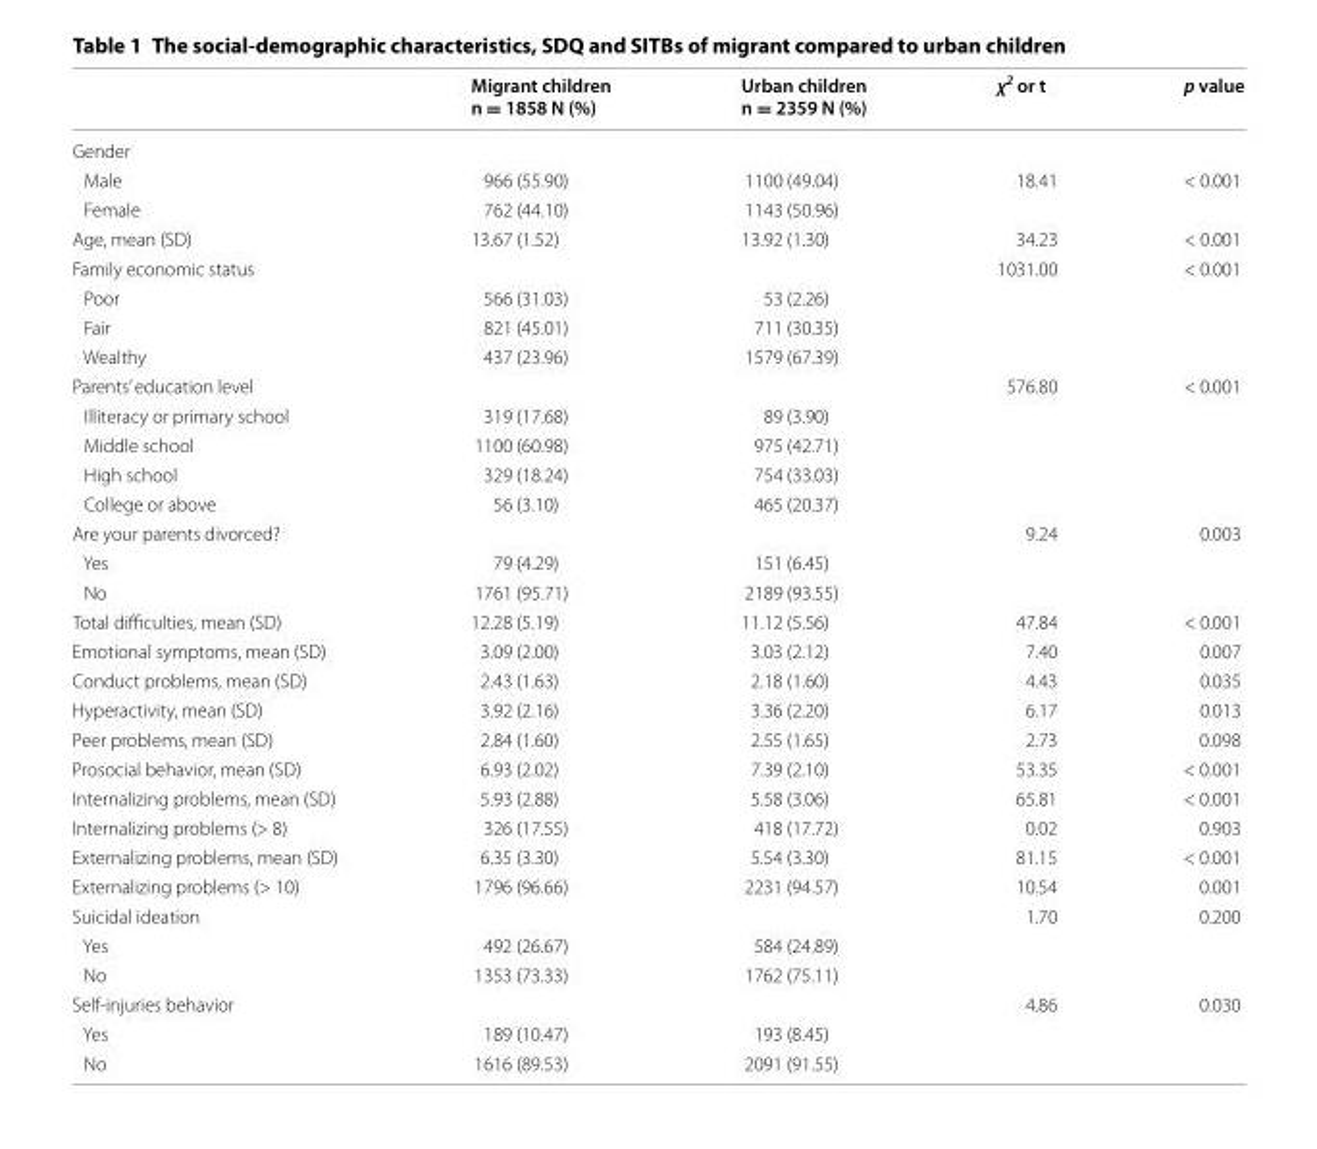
<table><thead><tr><td></td><td>Migrant children n = 1858 N (%)</td><td>Urban children n = 2359 N (%)</td><td>χ2 or t</td><td>p value</td></tr></thead><tbody><tr><td colspan="5">Gender</td></tr><tr><td>Male</td><td>966 (55.90)</td><td>1100 (49.04)</td><td>18.41</td><td>&lt; 0.001</td></tr><tr><td>Female</td><td>762 (44.10)</td><td>1143 (50.96)</td><td></td><td></td></tr><tr><td>Age, mean (SD)</td><td>13.67 (1.52)</td><td>13.92 (1.30)</td><td>34.23</td><td>&lt; 0.001</td></tr><tr><td colspan="3">Family economic status</td><td>1031.00</td><td>&lt; 0.001</td></tr><tr><td>Poor</td><td>566 (31.03)</td><td>53 (2.26)</td><td></td><td></td></tr><tr><td>Fair</td><td>821 (45.01)</td><td>711 (30.35)</td><td></td><td></td></tr><tr><td>Wealthy</td><td>437 (23.96)</td><td>1579 (67.39)</td><td></td><td></td></tr><tr><td colspan="3">Parents’ education level</td><td>576.80</td><td>&lt; 0.001</td></tr><tr><td>Illiteracy or primary school</td><td>319 (17.68)</td><td>89 (3.90)</td><td></td><td></td></tr><tr><td>Middle school</td><td>1100 (60.98)</td><td>975 (42.71)</td><td></td><td></td></tr><tr><td>High school</td><td>329 (18.24)</td><td>754 (33.03)</td><td></td><td></td></tr><tr><td>College or above</td><td>56 (3.10)</td><td>465 (20.37)</td><td></td><td></td></tr><tr><td colspan="3">Are your parents divorced?</td><td>9.24</td><td>0.003</td></tr><tr><td>Yes</td><td>79 (4.29)</td><td>151 (6.45)</td><td></td><td></td></tr><tr><td>No</td><td>1761 (95.71)</td><td>2189 (93.55)</td><td></td><td></td></tr><tr><td>Total difficulties, mean (SD)</td><td>12.28 (5.19)</td><td>11.12 (5.56)</td><td>47.84</td><td>&lt; 0.001</td></tr><tr><td>Emotional symptoms, mean (SD)</td><td>3.09 (2.00)</td><td>3.03 (2.12)</td><td>7.40</td><td>0.007</td></tr><tr><td>Conduct problems, mean (SD)</td><td>2.43 (1.63)</td><td>2.18 (1.60)</td><td>4.43</td><td>0.035</td></tr><tr><td>Hyperactivity, mean (SD)</td><td>3.92 (2.16)</td><td>3.36 (2.20)</td><td>6.17</td><td>0.013</td></tr><tr><td>Peer problems, mean (SD)</td><td>2.84 (1.60)</td><td>2.55 (1.65)</td><td>2.73</td><td>0.098</td></tr><tr><td>Prosocial behavior, mean (SD)</td><td>6.93 (2.02)</td><td>7.39 (2.10)</td><td>53.35</td><td>&lt; 0.001</td></tr><tr><td>Internalizing problems, mean (SD)</td><td>5.93 (2.88)</td><td>5.58 (3.06)</td><td>65.81</td><td>&lt; 0.001</td></tr><tr><td>Internalizing problems (&gt; 8)</td><td>326 (17.55)</td><td>418 (17.72)</td><td>0.02</td><td>0.903</td></tr><tr><td>Externalizing problems, mean (SD)</td><td>6.35 (3.30)</td><td>5.54 (3.30)</td><td>81.15</td><td>&lt; 0.001</td></tr><tr><td>Externalizing problems (&gt; 10)</td><td>1796 (96.66)</td><td>2231 (94.57)</td><td>10.54</td><td>0.001</td></tr><tr><td colspan="3">Suicidal ideation</td><td>1.70</td><td>0.200</td></tr><tr><td>Yes</td><td>492 (26.67)</td><td>584 (24.89)</td><td></td><td></td></tr><tr><td>No</td><td>1353 (73.33)</td><td>1762 (75.11)</td><td></td><td></td></tr><tr><td colspan="3">Self-injuries behavior</td><td>4.86</td><td>0.030</td></tr><tr><td>Yes</td><td>189 (10.47)</td><td>193 (8.45)</td><td></td><td></td></tr><tr><td>No</td><td>1616 (89.53)</td><td>2091 (91.55)</td><td></td><td></td></tr></tbody></table>